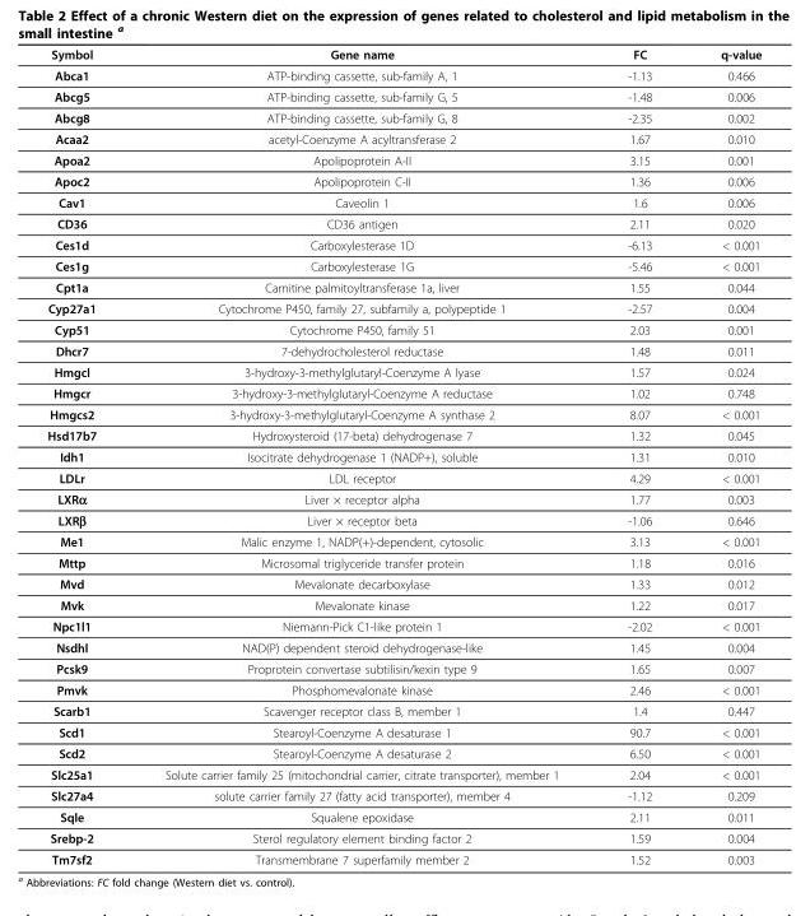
<table><thead><tr><td>Symbol</td><td>Gene name</td><td>FC</td><td>q-value</td></tr></thead><tbody><tr><td>Abca1</td><td>ATP-binding cassette, sub-family A, 1</td><td>-1.13</td><td>0.466</td></tr><tr><td>Abcg5</td><td>ATP-binding cassette, sub-family G, 5</td><td>-1.48</td><td>0.006</td></tr><tr><td>Abcg8</td><td>ATP-binding cassette, sub-family G, 8</td><td>-2.35</td><td>0.002</td></tr><tr><td>Acaa2</td><td>acetyl-Coenzyme A acyltransferase 2</td><td>1.67</td><td>0.010</td></tr><tr><td>Apoa2</td><td>Apolipoprotein A-II</td><td>3.15</td><td>0.001</td></tr><tr><td>Apoc2</td><td>Apolipoprotein C-II</td><td>1.36</td><td>0.006</td></tr><tr><td>Cav1</td><td>Caveolin 1</td><td>1.6</td><td>0.006</td></tr><tr><td>CD36</td><td>CD36 antigen</td><td>2.11</td><td>0.020</td></tr><tr><td>Ces1d</td><td>Carboxylesterase 1D</td><td>-6.13</td><td>&lt; 0.001</td></tr><tr><td>Ces1g</td><td>Carboxylesterase 1G</td><td>-5.46</td><td>&lt; 0.001</td></tr><tr><td>Cpt1a</td><td>Carnitine palmitoyltransferase 1a, liver</td><td>1.55</td><td>0.044</td></tr><tr><td>Cyp27a1</td><td>Cytochrome P450, family 27, subfamily a, polypeptide 1</td><td>-2.57</td><td>0.004</td></tr><tr><td>Cyp51</td><td>Cytochrome P450, family 51</td><td>2.03</td><td>0.001</td></tr><tr><td>Dhcr7</td><td>7-dehydrocholesterol reductase</td><td>1.48</td><td>0.011</td></tr><tr><td>Hmgcl</td><td>3-hydroxy-3-methylglutaryl-Coenzyme A lyase</td><td>1.57</td><td>0.024</td></tr><tr><td>Hmgcr</td><td>3-hydroxy-3-methylglutaryl-Coenzyme A reductase</td><td>1.02</td><td>0.748</td></tr><tr><td>Hmgcs2</td><td>3-hydroxy-3-methylglutaryl-Coenzyme A synthase 2</td><td>8.07</td><td>&lt; 0.001</td></tr><tr><td>Hsd17b7</td><td>Hydroxysteroid (17-beta) dehydrogenase 7</td><td>1.32</td><td>0.045</td></tr><tr><td>Idh1</td><td>Isocitrate dehydrogenase 1 (NADP+), soluble</td><td>1.31</td><td>0.010</td></tr><tr><td>LDLr</td><td>LDL receptor</td><td>4.29</td><td>&lt; 0.001</td></tr><tr><td>LXRα</td><td>Liver × receptor alpha</td><td>1.77</td><td>0.003</td></tr><tr><td>LXRβ</td><td>Liver × receptor beta</td><td>-1.06</td><td>0.646</td></tr><tr><td>Me1</td><td>Malic enzyme 1, NADP(+)-dependent, cytosolic</td><td>3.13</td><td>&lt; 0.001</td></tr><tr><td>Mttp</td><td>Microsomal triglyceride transfer protein</td><td>1.18</td><td>0.016</td></tr><tr><td>Mvd</td><td>Mevalonate decarboxylase</td><td>1.33</td><td>0.012</td></tr><tr><td>Mvk</td><td>Mevalonate kinase</td><td>1.22</td><td>0.017</td></tr><tr><td>Npc1l1</td><td>Niemann-Pick C1-like protein 1</td><td>-2.02</td><td>&lt; 0.001</td></tr><tr><td>Nsdhl</td><td>NAD(P) dependent steroid dehydrogenase-like</td><td>1.45</td><td>0.004</td></tr><tr><td>Pcsk9</td><td>Proprotein convertase subtilisin/kexin type 9</td><td>1.65</td><td>0.007</td></tr><tr><td>Pmvk</td><td>Phosphomevalonate kinase</td><td>2.46</td><td>&lt; 0.001</td></tr><tr><td>Scarb1</td><td>Scavenger receptor class B, member 1</td><td>1.4</td><td>0.447</td></tr><tr><td>Scd1</td><td>Stearoyl-Coenzyme A desaturase 1</td><td>90.7</td><td>&lt; 0.001</td></tr><tr><td>Scd2</td><td>Stearoyl-Coenzyme A desaturase 2</td><td>6.50</td><td>&lt; 0.001</td></tr><tr><td>Slc25a1</td><td>Solute carrier family 25 (mitochondrial carrier, citrate transporter), member 1</td><td>2.04</td><td>&lt; 0.001</td></tr><tr><td>Slc27a4</td><td>solute carrier family 27 (fatty acid transporter), member 4</td><td>-1.12</td><td>0.209</td></tr><tr><td>Sqle</td><td>Squalene epoxidase</td><td>2.11</td><td>0.011</td></tr><tr><td>Srebp-2</td><td>Sterol regulatory element binding factor 2</td><td>1.59</td><td>0.004</td></tr><tr><td>Tm7sf2</td><td>Transmembrane 7 superfamily member 2</td><td>1.52</td><td>0.003</td></tr></tbody></table>